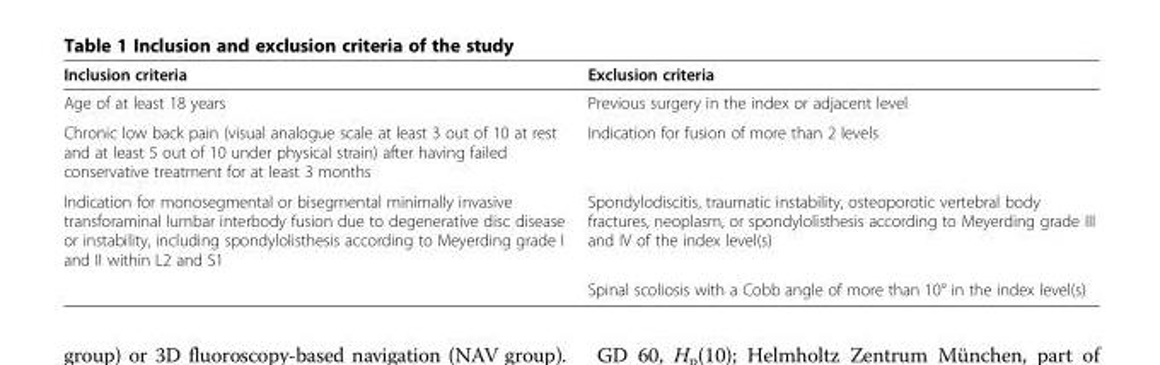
<table><thead><tr><td>Inclusion criteria</td><td>Exclusion criteria</td></tr></thead><tbody><tr><td>Age of at least 18 years</td><td>Previous surgery in the index or adjacent level</td></tr><tr><td>Chronic low back pain (visual analogue scale at least 3 out of 10 at rest and at least 5 out of 10 under physical strain) after having failed conservative treatment for at least 3 months</td><td>Indication for fusion of more than 2 levels</td></tr><tr><td rowspan="2">Indication for monosegmental or bisegmental minimally invasive transforaminal lumbar interbody fusion due to degenerative disc disease or instability, including spondylolisthesis according to Meyerding grade I and II within L2 and S1</td><td>Spondylodiscitis, traumatic instability, osteoporotic vertebral body fractures, neoplasm, or spondylolisthesis according to Meyerding grade III and IV of the index level(s)</td></tr><tr><td>Spinal scoliosis with a Cobb angle of more than 10° in the index level(s)</td></tr></tbody></table>